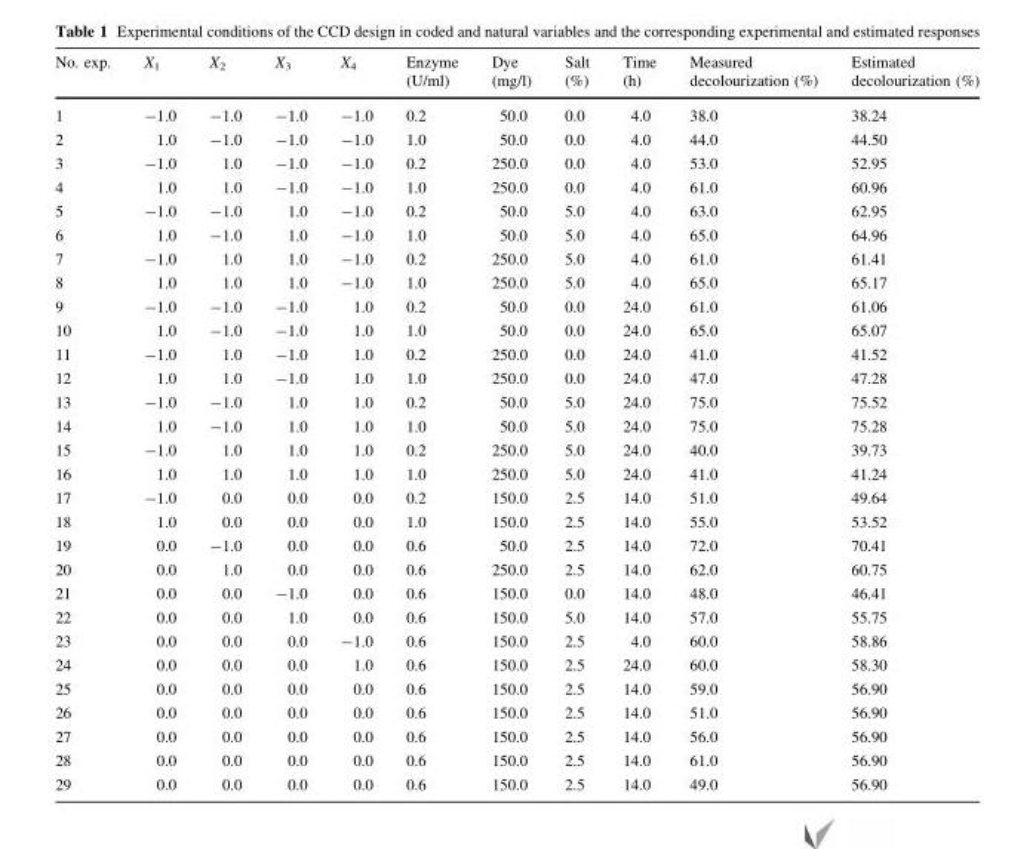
<table><thead><tr><td>No. exp.</td><td>X<sub>1</sub></td><td>X<sub>2</sub></td><td>X<sub>3</sub></td><td>X<sub>4</sub></td><td>Enzyme (U/ml)</td><td>Dye (mg/l)</td><td>Salt (%)</td><td>Time (h)</td><td>Measured decolourization (%)</td><td>Estimated decolourization (%)</td></tr></thead><tbody><tr><td>1</td><td>-1.0</td><td>-1.0</td><td>-1.0</td><td>-1.0</td><td>0.2</td><td>50.0</td><td>0.0</td><td>4.0</td><td>38.0</td><td>38.24</td></tr><tr><td>2</td><td>1.0</td><td>-1.0</td><td>-1.0</td><td>-1.0</td><td>1.0</td><td>50.0</td><td>0.0</td><td>4.0</td><td>44.0</td><td>44.50</td></tr><tr><td>3</td><td>-1.0</td><td>1.0</td><td>-1.0</td><td>-1.0</td><td>0.2</td><td>250.0</td><td>0.0</td><td>4.0</td><td>53.0</td><td>52.95</td></tr><tr><td>4</td><td>1.0</td><td>1.0</td><td>-1.0</td><td>-1.0</td><td>1.0</td><td>250.0</td><td>0.0</td><td>4.0</td><td>61.0</td><td>60.96</td></tr><tr><td>5</td><td>-1.0</td><td>-1.0</td><td>1.0</td><td>-1.0</td><td>0.2</td><td>50.0</td><td>5.0</td><td>4.0</td><td>63.0</td><td>62.95</td></tr><tr><td>6</td><td>1.0</td><td>-1.0</td><td>1.0</td><td>-1.0</td><td>1.0</td><td>50.0</td><td>5.0</td><td>4.0</td><td>65.0</td><td>64.96</td></tr><tr><td>7</td><td>-1.0</td><td>1.0</td><td>1.0</td><td>-1.0</td><td>0.2</td><td>250.0</td><td>5.0</td><td>4.0</td><td>61.0</td><td>61.41</td></tr><tr><td>8</td><td>1.0</td><td>1.0</td><td>1.0</td><td>-1.0</td><td>1.0</td><td>250.0</td><td>5.0</td><td>4.0</td><td>65.0</td><td>65.17</td></tr><tr><td>9</td><td>-1.0</td><td>-1.0</td><td>-1.0</td><td>1.0</td><td>0.2</td><td>50.0</td><td>0.0</td><td>24.0</td><td>61.0</td><td>61.06</td></tr><tr><td>10</td><td>1.0</td><td>-1.0</td><td>-1.0</td><td>1.0</td><td>1.0</td><td>50.0</td><td>0.0</td><td>24.0</td><td>65.0</td><td>65.07</td></tr><tr><td>11</td><td>-1.0</td><td>1.0</td><td>-1.0</td><td>1.0</td><td>0.2</td><td>250.0</td><td>0.0</td><td>24.0</td><td>41.0</td><td>41.52</td></tr><tr><td>12</td><td>1.0</td><td>1.0</td><td>-1.0</td><td>1.0</td><td>1.0</td><td>250.0</td><td>0.0</td><td>24.0</td><td>47.0</td><td>47.28</td></tr><tr><td>13</td><td>-1.0</td><td>-1.0</td><td>1.0</td><td>1.0</td><td>0.2</td><td>50.0</td><td>5.0</td><td>24.0</td><td>75.0</td><td>75.52</td></tr><tr><td>14</td><td>1.0</td><td>-1.0</td><td>1.0</td><td>1.0</td><td>1.0</td><td>50.0</td><td>5.0</td><td>24.0</td><td>75.0</td><td>75.28</td></tr><tr><td>15</td><td>-1.0</td><td>1.0</td><td>1.0</td><td>1.0</td><td>0.2</td><td>250.0</td><td>5.0</td><td>24.0</td><td>40.0</td><td>39.73</td></tr><tr><td>16</td><td>1.0</td><td>1.0</td><td>1.0</td><td>1.0</td><td>1.0</td><td>250.0</td><td>5.0</td><td>24.0</td><td>41.0</td><td>41.24</td></tr><tr><td>17</td><td>-1.0</td><td>0.0</td><td>0.0</td><td>0.0</td><td>0.2</td><td>150.0</td><td>2.5</td><td>14.0</td><td>51.0</td><td>49.64</td></tr><tr><td>18</td><td>1.0</td><td>0.0</td><td>0.0</td><td>0.0</td><td>1.0</td><td>150.0</td><td>2.5</td><td>14.0</td><td>55.0</td><td>53.52</td></tr><tr><td>19</td><td>0.0</td><td>-1.0</td><td>0.0</td><td>0.0</td><td>0.6</td><td>50.0</td><td>2.5</td><td>14.0</td><td>72.0</td><td>70.41</td></tr><tr><td>20</td><td>0.0</td><td>1.0</td><td>0.0</td><td>0.0</td><td>0.6</td><td>250.0</td><td>2.5</td><td>14.0</td><td>62.0</td><td>60.75</td></tr><tr><td>21</td><td>0.0</td><td>0.0</td><td>-1.0</td><td>0.0</td><td>0.6</td><td>150.0</td><td>0.0</td><td>14.0</td><td>48.0</td><td>46.41</td></tr><tr><td>22</td><td>0.0</td><td>0.0</td><td>1.0</td><td>0.0</td><td>0.6</td><td>150.0</td><td>5.0</td><td>14.0</td><td>57.0</td><td>55.75</td></tr><tr><td>23</td><td>0.0</td><td>0.0</td><td>0.0</td><td>-1.0</td><td>0.6</td><td>150.0</td><td>2.5</td><td>4.0</td><td>60.0</td><td>58.86</td></tr><tr><td>24</td><td>0.0</td><td>0.0</td><td>0.0</td><td>1.0</td><td>0.6</td><td>150.0</td><td>2.5</td><td>24.0</td><td>60.0</td><td>58.30</td></tr><tr><td>25</td><td>0.0</td><td>0.0</td><td>0.0</td><td>0.0</td><td>0.6</td><td>150.0</td><td>2.5</td><td>14.0</td><td>59.0</td><td>56.90</td></tr><tr><td>26</td><td>0.0</td><td>0.0</td><td>0.0</td><td>0.0</td><td>0.6</td><td>150.0</td><td>2.5</td><td>14.0</td><td>51.0</td><td>56.90</td></tr><tr><td>27</td><td>0.0</td><td>0.0</td><td>0.0</td><td>0.0</td><td>0.6</td><td>150.0</td><td>2.5</td><td>14.0</td><td>56.0</td><td>56.90</td></tr><tr><td>28</td><td>0.0</td><td>0.0</td><td>0.0</td><td>0.0</td><td>0.6</td><td>150.0</td><td>2.5</td><td>14.0</td><td>61.0</td><td>56.90</td></tr><tr><td>29</td><td>0.0</td><td>0.0</td><td>0.0</td><td>0.0</td><td>0.6</td><td>150.0</td><td>2.5</td><td>14.0</td><td>49.0</td><td>56.90</td></tr></tbody></table>